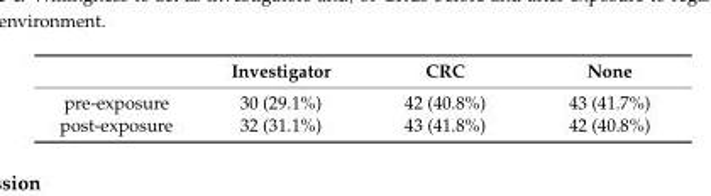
<table><thead><tr><td></td><td>Investigator</td><td>CRC</td><td>None</td></tr></thead><tbody><tr><td>pre-exposure</td><td>30 (29.1%)</td><td>42 (40.8%)</td><td>43 (41.7%)</td></tr><tr><td>post-exposure</td><td>32 (31.1%)</td><td>43 (41.8%)</td><td>42 (40.8%)</td></tr></tbody></table>